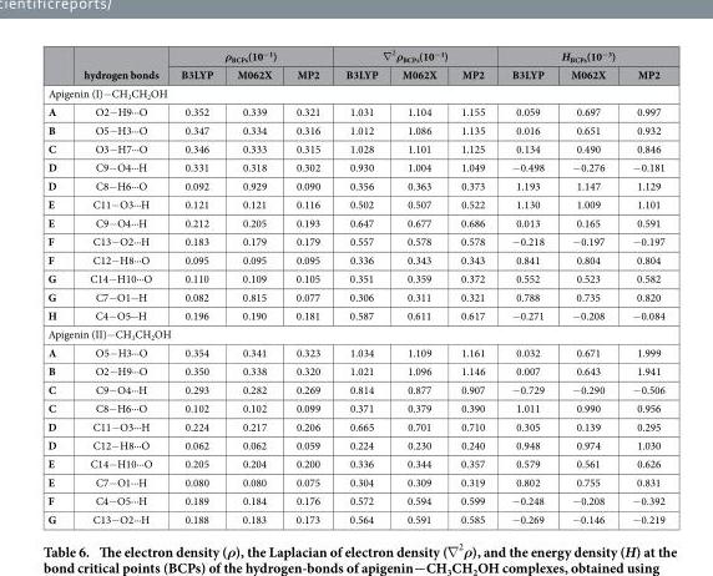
<table><thead><tr><td rowspan="2"></td><td rowspan="2">hydrogen bonds</td><td colspan="3">ρ<sub>BCPs</sub>(10<sup>−1</sup>)</td><td colspan="3">∇2ρBCPs(10−1)</td><td colspan="3">H<sub>BCPs</sub>(10<sup>−3</sup>)</td></tr><tr><td>B3LYP</td><td>M062X</td><td>MP2</td><td>B3LYP</td><td>M062X</td><td>MP2</td><td>B3LYP</td><td>M062X</td><td>MP2</td></tr></thead><tbody><tr><td colspan="11">Apigenin (I)− CH<sub>3</sub>CH<sub>2</sub>OH</td></tr><tr><td>A</td><td>O2− H9···O</td><td>0.352</td><td>0.339</td><td>0.321</td><td>1.031</td><td>1.104</td><td>1.155</td><td>0.059</td><td>0.697</td><td>0.997</td></tr><tr><td>B</td><td>O5− H3···O</td><td>0.347</td><td>0.334</td><td>0.316</td><td>1.012</td><td>1.086</td><td>1.135</td><td>0.016</td><td>0.651</td><td>0.932</td></tr><tr><td>C</td><td>O3− H7···O</td><td>0.346</td><td>0.333</td><td>0.315</td><td>1.028</td><td>1.101</td><td>1.125</td><td>0.134</td><td>0.490</td><td>0.846</td></tr><tr><td>D</td><td>C9− O4···H</td><td>0.331</td><td>0.318</td><td>0.302</td><td>0.930</td><td>1.004</td><td>1.049</td><td>− 0.498</td><td>− 0.276</td><td>− 0.181</td></tr><tr><td>D</td><td>C8− H6···O</td><td>0.092</td><td>0.929</td><td>0.090</td><td>0.356</td><td>0.363</td><td>0.373</td><td>1.193</td><td>1.147</td><td>1.129</td></tr><tr><td>E</td><td>C11− O3···H</td><td>0.121</td><td>0.121</td><td>0.116</td><td>0.502</td><td>0.507</td><td>0.522</td><td>1.130</td><td>1.009</td><td>1.101</td></tr><tr><td>E</td><td>C9− O4···H</td><td>0.212</td><td>0.205</td><td>0.193</td><td>0.647</td><td>0.677</td><td>0.686</td><td>0.013</td><td>0.165</td><td>0.591</td></tr><tr><td>F</td><td>C13− O2···H</td><td>0.183</td><td>0.179</td><td>0.179</td><td>0.557</td><td>0.578</td><td>0.578</td><td>− 0.218</td><td>− 0.197</td><td>− 0.197</td></tr><tr><td>F</td><td>C12− H8···O</td><td>0.095</td><td>0.095</td><td>0.095</td><td>0.336</td><td>0.343</td><td>0.343</td><td>0.841</td><td>0.804</td><td>0.804</td></tr><tr><td>G</td><td>C14− H10···O</td><td>0.110</td><td>0.109</td><td>0.105</td><td>0.351</td><td>0.359</td><td>0.372</td><td>0.552</td><td>0.523</td><td>0.582</td></tr><tr><td>G</td><td>C7− O1···H</td><td>0.082</td><td>0.815</td><td>0.077</td><td>0.306</td><td>0.311</td><td>0.321</td><td>0.788</td><td>0.735</td><td>0.820</td></tr><tr><td>H</td><td>C4− O5···H</td><td>0.196</td><td>0.190</td><td>0.181</td><td>0.587</td><td>0.611</td><td>0.617</td><td>− 0.271</td><td>− 0.208</td><td>− 0.084</td></tr><tr><td colspan="11">Apigenin (II)− CH<sub>3</sub>CH<sub>2</sub>OH</td></tr><tr><td>A</td><td>O5− H3···O</td><td>0.354</td><td>0.341</td><td>0.323</td><td>1.034</td><td>1.109</td><td>1.161</td><td>0.032</td><td>0.671</td><td>1.999</td></tr><tr><td>B</td><td>O2− H9···O</td><td>0.350</td><td>0.338</td><td>0.320</td><td>1.021</td><td>1.096</td><td>1.146</td><td>0.007</td><td>0.643</td><td>1.941</td></tr><tr><td>C</td><td>C9− O4···H</td><td>0.293</td><td>0.282</td><td>0.269</td><td>0.814</td><td>0.877</td><td>0.907</td><td>− 0.729</td><td>− 0.290</td><td>− 0.506</td></tr><tr><td>C</td><td>C8− H6···O</td><td>0.102</td><td>0.102</td><td>0.099</td><td>0.371</td><td>0.379</td><td>0.390</td><td>1.011</td><td>0.990</td><td>0.956</td></tr><tr><td>D</td><td>C11− O3···H</td><td>0.224</td><td>0.217</td><td>0.206</td><td>0.665</td><td>0.701</td><td>0.710</td><td>0.305</td><td>0.139</td><td>0.295</td></tr><tr><td>D</td><td>C12− H8···O</td><td>0.062</td><td>0.062</td><td>0.059</td><td>0.224</td><td>0.230</td><td>0.240</td><td>0.948</td><td>0.974</td><td>1.030</td></tr><tr><td>E</td><td>C14− H10···O</td><td>0.205</td><td>0.204</td><td>0.200</td><td>0.336</td><td>0.344</td><td>0.357</td><td>0.579</td><td>0.561</td><td>0.626</td></tr><tr><td>E</td><td>C7− O1···H</td><td>0.080</td><td>0.080</td><td>0.075</td><td>0.304</td><td>0.309</td><td>0.319</td><td>0.802</td><td>0.755</td><td>0.831</td></tr><tr><td>F</td><td>C4− O5···H</td><td>0.189</td><td>0.184</td><td>0.176</td><td>0.572</td><td>0.594</td><td>0.599</td><td>− 0.248</td><td>− 0.208</td><td>− 0.392</td></tr><tr><td>G</td><td>C13− O2···H</td><td>0.188</td><td>0.183</td><td>0.173</td><td>0.564</td><td>0.591</td><td>0.585</td><td>− 0.269</td><td>− 0.146</td><td>− 0.219</td></tr></tbody></table>